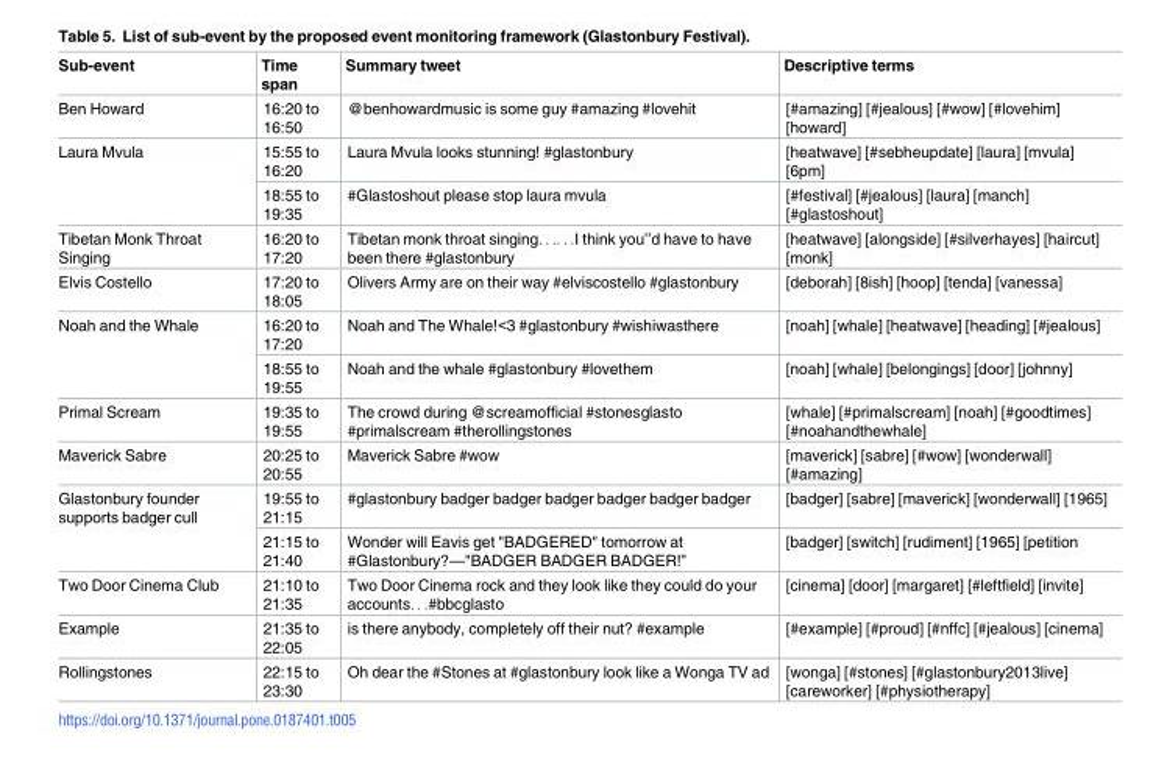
<table><thead><tr><td>Sub-event</td><td>Time span</td><td>Summary tweet</td><td>Descriptive terms</td></tr></thead><tbody><tr><td>Ben Howard</td><td>16:20 to 16:50</td><td>@benhowardmusic is some guy #amazing #lovehit</td><td>[#amazing] [#jealous] [#wow] [#lovehim] [howard]</td></tr><tr><td rowspan="2">Laura Mvula</td><td>15:55 to 16:20</td><td>Laura Mvula looks stunning! #glastonbury</td><td>[heatwave] [#sebheupdate] [laura] [mvula] [6pm]</td></tr><tr><td>18:55 to 19:35</td><td>#Glastoshout please stop laura mvula</td><td>[#festival] [#jealous] [laura] [manch] [#glastoshout]</td></tr><tr><td>Tibetan Monk Throat Singing</td><td>16:20 to 17:20</td><td>Tibetan monk throat singing. . .. . .I think you’’d have to have been there #glastonbury</td><td>[heatwave] [alongside] [#silverhayes] [haircut] [monk]</td></tr><tr><td>Elvis Costello</td><td>17:20 to 18:05</td><td>Olivers Army are on their way #elviscostello #glastonbury</td><td>[deborah] [8ish] [hoop] [tenda] [vanessa]</td></tr><tr><td rowspan="2">Noah and the Whale</td><td>16:20 to 17:20</td><td>Noah and The Whale!&lt;3 #glastonbury #wishiwasthere</td><td>[noah] [whale] [heatwave] [heading] [#jealous]</td></tr><tr><td>18:55 to 19:55</td><td>Noah and the whale #glastonbury #lovethem</td><td>[noah] [whale] [belongings] [door] [johnny]</td></tr><tr><td>Primal Scream</td><td>19:35 to 19:55</td><td>The crowd during @screamofficial #stonesglasto #primalscream #therollingstones</td><td>[whale] [#primalscream] [noah] [#goodtimes] [#noahandthewhale]</td></tr><tr><td>Maverick Sabre</td><td>20:25 to 20:55</td><td>Maverick Sabre #wow</td><td>[maverick] [sabre] [#wow] [wonderwall] [#amazing]</td></tr><tr><td rowspan="2">Glastonbury founder supports badger cull</td><td>19:55 to 21:15</td><td>#glastonbury badger badger badger badger badger badger</td><td>[badger] [sabre] [maverick] [wonderwall] [1965]</td></tr><tr><td>21:15 to 21:40</td><td>Wonder will Eavis get &quot;BADGERED&quot; tomorrow at #Glastonbury?—&quot;BADGER BADGER BADGER!”</td><td>[badger] [switch] [rudiment] [1965] [petition</td></tr><tr><td>Two Door Cinema Club</td><td>21:10 to 21:35</td><td>Two Door Cinema rock and they look like they could do your accounts. . .#bbcglasto</td><td>[cinema] [door] [margaret] [#leftfield] [invite]</td></tr><tr><td>Example</td><td>21:35 to 22:05</td><td>is there anybody, completely off their nut? #example</td><td>[#example] [#proud] [#nffc] [#jealous] [cinema]</td></tr><tr><td>Rollingstones</td><td>22:15 to 23:30</td><td>Oh dear the #Stones at #glastonbury look like a Wonga TV ad</td><td>[wonga] [#stones] [#glastonbury2013live] [careworker] [#physiotherapy]</td></tr></tbody></table>